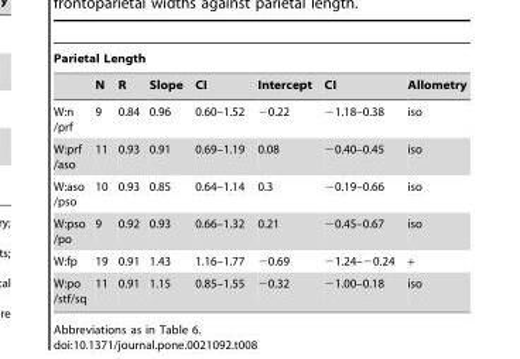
<table><thead><tr><td colspan="8">Parietal Length</td></tr><tr><td></td><td>N</td><td>R</td><td>Slope</td><td>CI</td><td>Intercept</td><td>CI</td><td>Allometry</td></tr></thead><tbody><tr><td>W:n /prf</td><td>9</td><td>0.84</td><td>0.96</td><td>0.60–1.52</td><td>−0.22</td><td>−1.18–0.38</td><td>iso</td></tr><tr><td>W:prf /aso</td><td>11</td><td>0.93</td><td>0.91</td><td>0.69–1.19</td><td>0.08</td><td>−0.40–0.45</td><td>iso</td></tr><tr><td>W:aso /pso</td><td>10</td><td>0.93</td><td>0.85</td><td>0.64–1.14</td><td>0.3</td><td>−0.19–0.66</td><td>iso</td></tr><tr><td>W:pso /po</td><td>9</td><td>0.92</td><td>0.93</td><td>0.66–1.32</td><td>0.21</td><td>−0.45–0.67</td><td>iso</td></tr><tr><td>W:fp</td><td>19</td><td>0.91</td><td>1.43</td><td>1.16–1.77</td><td>−0.69</td><td>−1.24–−0.24</td><td>+</td></tr><tr><td>W:po /stf/sq</td><td>11</td><td>0.91</td><td>1.15</td><td>0.85–1.55</td><td>−0.32</td><td>−1.00–0.18</td><td>iso</td></tr></tbody></table>